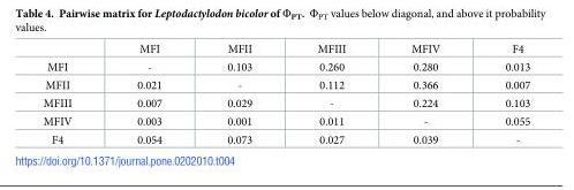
<table><thead><tr><td></td><td>MFI</td><td>MFII</td><td>MFIII</td><td>MFIV</td><td>F4</td></tr></thead><tbody><tr><td>MFI</td><td>-</td><td>0.103</td><td>0.260</td><td>0.280</td><td>0.013</td></tr><tr><td>MFII</td><td>0.021</td><td>-</td><td>0.112</td><td>0.366</td><td>0.007</td></tr><tr><td>MFIII</td><td>0.007</td><td>0.029</td><td>-</td><td>0.224</td><td>0.103</td></tr><tr><td>MFIV</td><td>0.003</td><td>0.001</td><td>0.011</td><td>-</td><td>0.055</td></tr><tr><td>F4</td><td>0.054</td><td>0.073</td><td>0.027</td><td>0.039</td><td>-</td></tr></tbody></table>